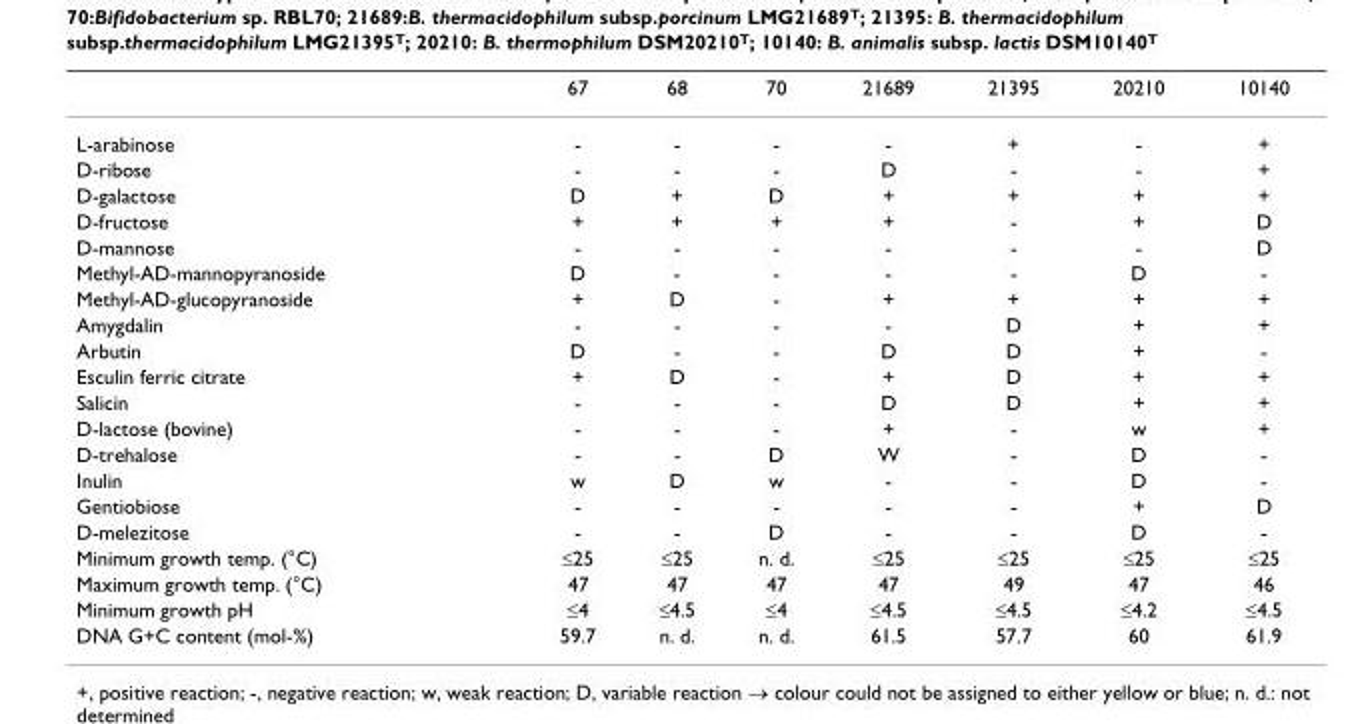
<table><thead><tr><td></td><td>67</td><td>68</td><td>70</td><td>21689</td><td>21395</td><td>20210</td><td>10140</td></tr></thead><tbody><tr><td>L-arabinose</td><td>-</td><td>-</td><td>-</td><td>-</td><td>+</td><td>-</td><td>+</td></tr><tr><td>D-ribose</td><td>-</td><td>-</td><td>-</td><td>D</td><td>-</td><td>-</td><td>+</td></tr><tr><td>D-galactose</td><td>D</td><td>+</td><td>D</td><td>+</td><td>+</td><td>+</td><td>+</td></tr><tr><td>D-fructose</td><td>+</td><td>+</td><td>+</td><td>+</td><td>-</td><td>+</td><td>D</td></tr><tr><td>D-mannose</td><td>-</td><td>-</td><td>-</td><td>-</td><td>-</td><td>-</td><td>D</td></tr><tr><td>Methyl-AD-mannopyranoside</td><td>D</td><td>-</td><td>-</td><td>-</td><td>-</td><td>D</td><td>-</td></tr><tr><td>Methyl-AD-glucopyranoside</td><td>+</td><td>D</td><td>-</td><td>+</td><td>+</td><td>+</td><td>+</td></tr><tr><td>Amygdalin</td><td>-</td><td>-</td><td>-</td><td>-</td><td>D</td><td>+</td><td>+</td></tr><tr><td>Arbutin</td><td>D</td><td>-</td><td>-</td><td>D</td><td>D</td><td>+</td><td>-</td></tr><tr><td>Esculin ferric citrate</td><td>+</td><td>D</td><td>-</td><td>+</td><td>D</td><td>+</td><td>+</td></tr><tr><td>Salicin</td><td>-</td><td>-</td><td>-</td><td>D</td><td>D</td><td>+</td><td>+</td></tr><tr><td>D-lactose (bovine)</td><td>-</td><td>-</td><td>-</td><td>+</td><td>-</td><td>w</td><td>+</td></tr><tr><td>D-trehalose</td><td>-</td><td>-</td><td>D</td><td>W</td><td>-</td><td>D</td><td>-</td></tr><tr><td>Inulin</td><td>w</td><td>D</td><td>w</td><td>-</td><td>-</td><td>D</td><td>-</td></tr><tr><td>Gentiobiose</td><td>-</td><td>-</td><td>-</td><td>-</td><td>-</td><td>+</td><td>D</td></tr><tr><td>D-melezitose</td><td>-</td><td>-</td><td>D</td><td>-</td><td>-</td><td>D</td><td>-</td></tr><tr><td>Minimum growth temp. (°C)</td><td>≤25</td><td>≤25</td><td>n. d.</td><td>≤25</td><td>≤25</td><td>≤25</td><td>≤25</td></tr><tr><td>Maximum growth temp. (°C)</td><td>47</td><td>47</td><td>47</td><td>47</td><td>49</td><td>47</td><td>46</td></tr><tr><td>Minimum growth pH</td><td>≤4</td><td>≤4.5</td><td>≤4</td><td>≤4.5</td><td>≤4.5</td><td>≤4.2</td><td>≤4.5</td></tr><tr><td>DNA G+C content (mol-%)</td><td>59.7</td><td>n. d.</td><td>n. d.</td><td>61.5</td><td>57.7</td><td>60</td><td>61.9</td></tr></tbody></table>